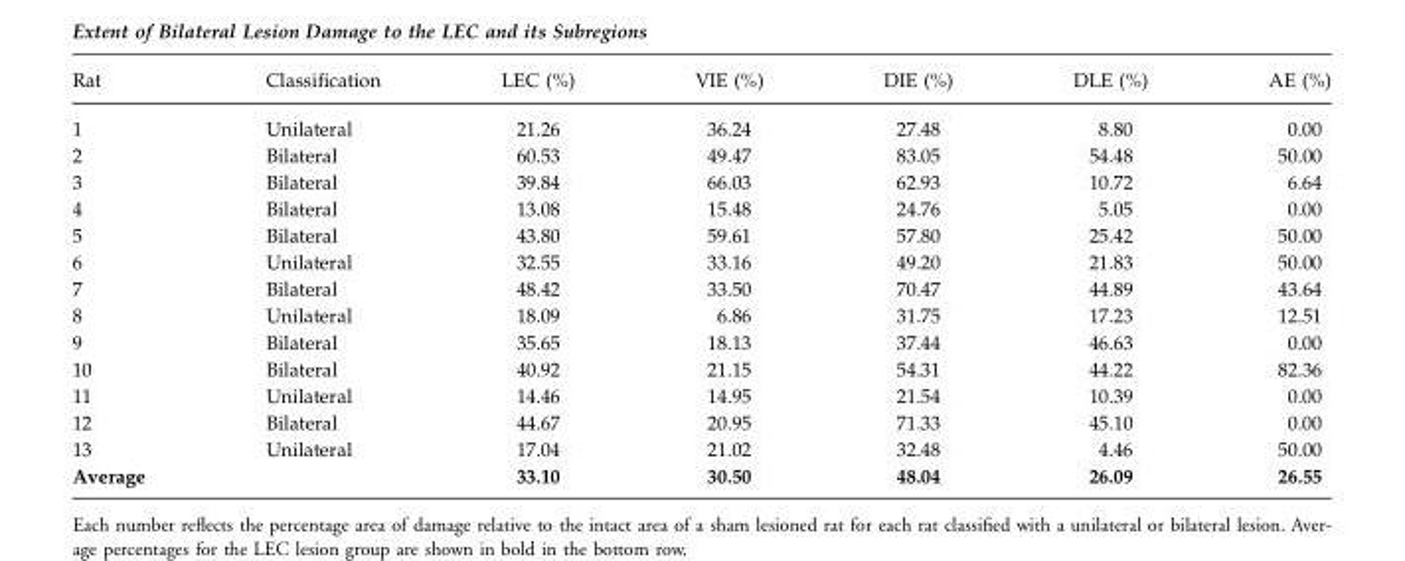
<table><thead><tr><td>Rat</td><td>Classification</td><td>LEC (%)</td><td>VIE (%)</td><td>DIE (%)</td><td>DLE (%)</td><td>AE (%)</td></tr></thead><tbody><tr><td>1</td><td>Unilateral</td><td>21.26</td><td>36.24</td><td>27.48</td><td>8.80</td><td>0.00</td></tr><tr><td>2</td><td>Bilateral</td><td>60.53</td><td>49.47</td><td>83.05</td><td>54.48</td><td>50.00</td></tr><tr><td>3</td><td>Bilateral</td><td>39.84</td><td>66.03</td><td>62.93</td><td>10.72</td><td>6.64</td></tr><tr><td>4</td><td>Bilateral</td><td>13.08</td><td>15.48</td><td>24.76</td><td>5.05</td><td>0.00</td></tr><tr><td>5</td><td>Bilateral</td><td>43.80</td><td>59.61</td><td>57.80</td><td>25.42</td><td>50.00</td></tr><tr><td>6</td><td>Unilateral</td><td>32.55</td><td>33.16</td><td>49.20</td><td>21.83</td><td>50.00</td></tr><tr><td>7</td><td>Bilateral</td><td>48.42</td><td>33.50</td><td>70.47</td><td>44.89</td><td>43.64</td></tr><tr><td>8</td><td>Unilateral</td><td>18.09</td><td>6.86</td><td>31.75</td><td>17.23</td><td>12.51</td></tr><tr><td>9</td><td>Bilateral</td><td>35.65</td><td>18.13</td><td>37.44</td><td>46.63</td><td>0.00</td></tr><tr><td>10</td><td>Bilateral</td><td>40.92</td><td>21.15</td><td>54.31</td><td>44.22</td><td>82.36</td></tr><tr><td>11</td><td>Unilateral</td><td>14.46</td><td>14.95</td><td>21.54</td><td>10.39</td><td>0.00</td></tr><tr><td>12</td><td>Bilateral</td><td>44.67</td><td>20.95</td><td>71.33</td><td>45.10</td><td>0.00</td></tr><tr><td>13</td><td>Unilateral</td><td>17.04</td><td>21.02</td><td>32.48</td><td>4.46</td><td>50.00</td></tr><tr><td>Average</td><td></td><td>33.10</td><td>30.50</td><td>48.04</td><td>26.09</td><td>26.55</td></tr></tbody></table>